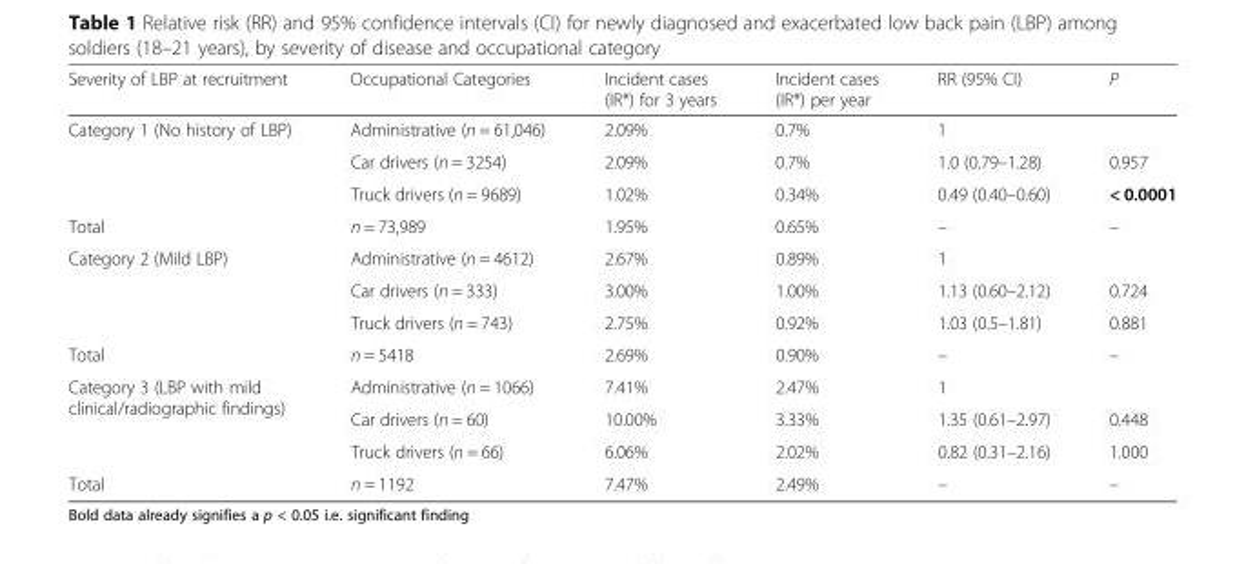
<table><thead><tr><td>Severity of LBP at recruitment</td><td>Occupational Categories</td><td>Incident cases (IR*) for 3 years</td><td>Incident cases (IR*) per year</td><td>RR (95% CI)</td><td>P</td></tr></thead><tbody><tr><td rowspan="3">Category 1 (No history of LBP)</td><td>Administrative (n = 61,046)</td><td>2.09%</td><td>0.7%</td><td>1</td><td></td></tr><tr><td>Car drivers (n = 3254)</td><td>2.09%</td><td>0.7%</td><td>1.0 (0.79–1.28)</td><td>0.957</td></tr><tr><td>Truck drivers (n = 9689)</td><td>1.02%</td><td>0.34%</td><td>0.49 (0.40–0.60)</td><td>&lt; 0.0001</td></tr><tr><td>Total</td><td>n = 73,989</td><td>1.95%</td><td>0.65%</td><td>–</td><td>–</td></tr><tr><td rowspan="3">Category 2 (Mild LBP)</td><td>Administrative (n = 4612)</td><td>2.67%</td><td>0.89%</td><td>1</td><td></td></tr><tr><td>Car drivers (n = 333)</td><td>3.00%</td><td>1.00%</td><td>1.13 (0.60–2.12)</td><td>0.724</td></tr><tr><td>Truck drivers (n = 743)</td><td>2.75%</td><td>0.92%</td><td>1.03 (0.5–1.81)</td><td>0.881</td></tr><tr><td>Total</td><td>n = 5418</td><td>2.69%</td><td>0.90%</td><td>–</td><td>–</td></tr><tr><td rowspan="3">Category 3 (LBP with mild clinical/radiographic findings)</td><td>Administrative (n = 1066)</td><td>7.41%</td><td>2.47%</td><td>1</td><td></td></tr><tr><td>Car drivers (n = 60)</td><td>10.00%</td><td>3.33%</td><td>1.35 (0.61–2.97)</td><td>0.448</td></tr><tr><td>Truck drivers (n = 66)</td><td>6.06%</td><td>2.02%</td><td>0.82 (0.31–2.16)</td><td>1.000</td></tr><tr><td>Total</td><td>n = 1192</td><td>7.47%</td><td>2.49%</td><td>–</td><td>–</td></tr></tbody></table>